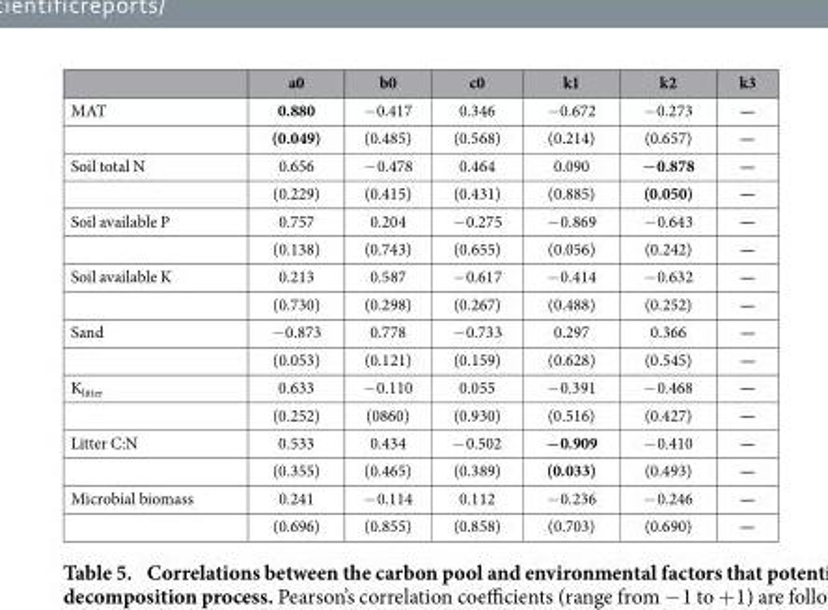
<table><thead><tr><td></td><td>a0</td><td>b0</td><td>c0</td><td>k1</td><td>k2</td><td>k3</td></tr></thead><tbody><tr><td rowspan="2">MAT</td><td>0.880</td><td>−0.417</td><td>0.346</td><td>−0.672</td><td>−0.273</td><td>—</td></tr><tr><td>(0.049)</td><td>(0.485)</td><td>(0.568)</td><td>(0.214)</td><td>(0.657)</td><td>—</td></tr><tr><td rowspan="2">Soil total N</td><td>0.656</td><td>− 0.478</td><td>0.464</td><td>0.090</td><td>−0.878</td><td>—</td></tr><tr><td>(0.229)</td><td>(0.415)</td><td>(0.431)</td><td>(0.885)</td><td>(0.050)</td><td>—</td></tr><tr><td rowspan="2">Soil available P</td><td>0.757</td><td>0.204</td><td>− 0.275</td><td>− 0.869</td><td>− 0.643</td><td>—</td></tr><tr><td>(0.138)</td><td>(0.743)</td><td>(0.655)</td><td>(0.056)</td><td>(0.242)</td><td>—</td></tr><tr><td rowspan="2">Soil available K</td><td>0.213</td><td>0.587</td><td>− 0.617</td><td>− 0.414</td><td>− 0.632</td><td>—</td></tr><tr><td>(0.730)</td><td>(0.298)</td><td>(0.267)</td><td>(0.488)</td><td>(0.252)</td><td>—</td></tr><tr><td rowspan="2">Sand</td><td>− 0.873</td><td>0.778</td><td>− 0.733</td><td>0.297</td><td>0.366</td><td>—</td></tr><tr><td>(0.053)</td><td>(0.121)</td><td>(0.159)</td><td>(0.628)</td><td>(0.545)</td><td>—</td></tr><tr><td rowspan="2">K<sub>litter</sub></td><td>0.633</td><td>− 0.110</td><td>0.055</td><td>− 0.391</td><td>− 0.468</td><td>—</td></tr><tr><td>(0.252)</td><td>(0860)</td><td>(0.930)</td><td>(0.516)</td><td>(0.427)</td><td>—</td></tr><tr><td rowspan="2">Litter C:N</td><td>0.533</td><td>0.434</td><td>− 0.502</td><td>−0.909</td><td>− 0.410</td><td>—</td></tr><tr><td>(0.355)</td><td>(0.465)</td><td>(0.389)</td><td>(0.033)</td><td>(0.493)</td><td>—</td></tr><tr><td rowspan="2">Microbial biomass</td><td>0.241</td><td>− 0.114</td><td>0.112</td><td>− 0.236</td><td>− 0.246</td><td>—</td></tr><tr><td>(0.696)</td><td>(0.855)</td><td>(0.858)</td><td>(0.703)</td><td>(0.690)</td><td>—</td></tr></tbody></table>